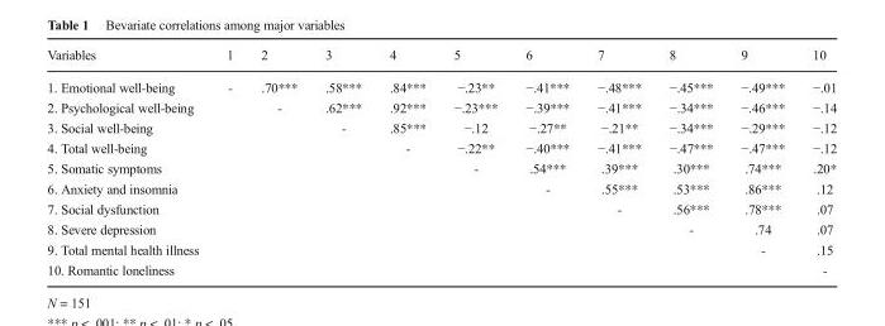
<table><thead><tr><td>Variables</td><td>1</td><td>2</td><td>3</td><td>4</td><td>5</td><td>6</td><td>7</td><td>8</td><td>9</td><td>10</td></tr></thead><tbody><tr><td>1. Emotional well-being</td><td>-</td><td>.70***</td><td>.58***</td><td>.84***</td><td>−.23**</td><td>−.41***</td><td>−.48***</td><td>−.45***</td><td>−.49***</td><td>−.01</td></tr><tr><td>2. Psychological well-being</td><td></td><td>-</td><td>.62***</td><td>.92***</td><td>−.23***</td><td>−.39***</td><td>−.41***</td><td>−.34***</td><td>−.46***</td><td>−.14</td></tr><tr><td>3. Social well-being</td><td></td><td></td><td>-</td><td>.85***</td><td>−.12</td><td>−.27**</td><td>−.21**</td><td>−.34***</td><td>−.29***</td><td>−.12</td></tr><tr><td>4. Total well-being</td><td></td><td></td><td></td><td>-</td><td>−.22**</td><td>−.40***</td><td>−.41***</td><td>−.47***</td><td>−.47***</td><td>−.12</td></tr><tr><td>5. Somatic symptoms</td><td></td><td></td><td></td><td></td><td>-</td><td>.54***</td><td>.39***</td><td>.30***</td><td>.74***</td><td>.20*</td></tr><tr><td>6. Anxiety and insomnia</td><td></td><td></td><td></td><td></td><td></td><td>-</td><td>.55***</td><td>.53***</td><td>.86***</td><td>.12</td></tr><tr><td>7. Social dysfunction</td><td></td><td></td><td></td><td></td><td></td><td></td><td>-</td><td>.56***</td><td>.78***</td><td>.07</td></tr><tr><td>8. Severe depression</td><td></td><td></td><td></td><td></td><td></td><td></td><td></td><td>-</td><td>.74</td><td>.07</td></tr><tr><td>9. Total mental health illness</td><td></td><td></td><td></td><td></td><td></td><td></td><td></td><td></td><td>-</td><td>.15</td></tr><tr><td>10. Romantic loneliness</td><td></td><td></td><td></td><td></td><td></td><td></td><td></td><td></td><td></td><td>-</td></tr></tbody></table>